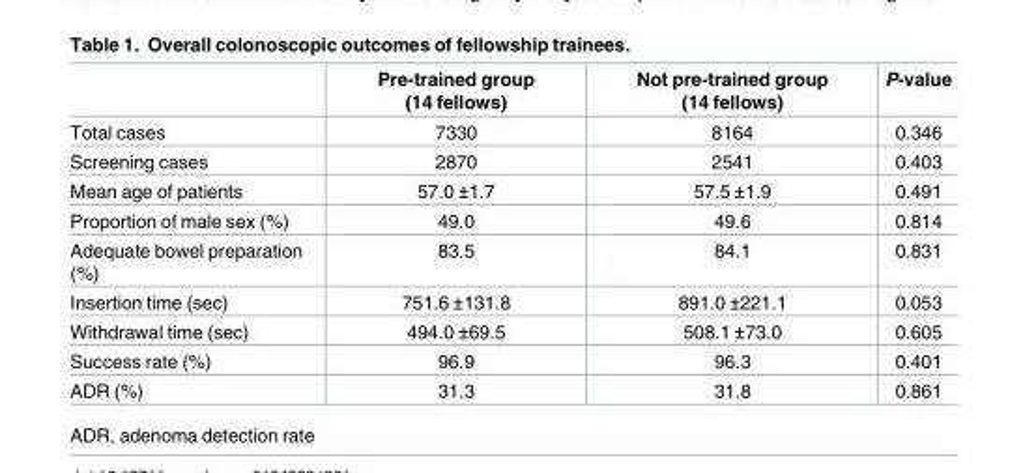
<table><thead><tr><td></td><td>Pre-trained group (14 fellows)</td><td>Not pre-trained group (14 fellows)</td><td>P-value</td></tr></thead><tbody><tr><td>Total cases</td><td>7330</td><td>8164</td><td>0.346</td></tr><tr><td>Screening cases</td><td>2870</td><td>2541</td><td>0.403</td></tr><tr><td>Mean age of patients</td><td>57.0 ±1.7</td><td>57.5 ±1.9</td><td>0.491</td></tr><tr><td>Proportion of male sex (%)</td><td>49.0</td><td>49.6</td><td>0.814</td></tr><tr><td>Adequate bowel preparation (%)</td><td>83.5</td><td>84.1</td><td>0.831</td></tr><tr><td>Insertion time (sec)</td><td>751.6 ±131.8</td><td>891.0 ±221.1</td><td>0.053</td></tr><tr><td>Withdrawal time (sec)</td><td>494.0 ±69.5</td><td>508.1 ±73.0</td><td>0.605</td></tr><tr><td>Success rate (%)</td><td>96.9</td><td>96.3</td><td>0.401</td></tr><tr><td>ADR (%)</td><td>31.3</td><td>31.8</td><td>0.861</td></tr></tbody></table>